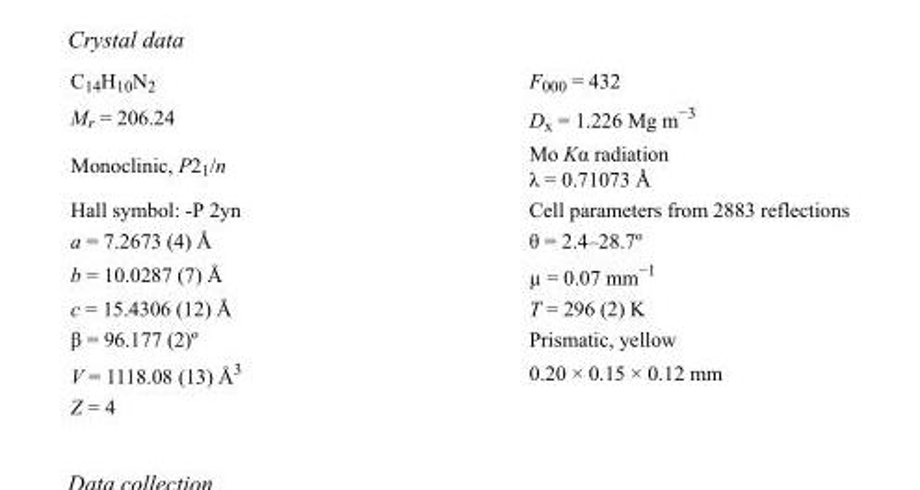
<table><tbody><tr><td>C<sub>14</sub>H<sub>10</sub>N<sub>2</sub></td><td>F<sub>000</sub> = 432</td></tr><tr><td>M<sub>r</sub> = 206.24</td><td>D<sub>x</sub> = 1.226 Mg m<sup>−3</sup></td></tr><tr><td>Monoclinic, P2<sub>1</sub>/n</td><td>Mo Kα radiation λ = 0.71073 Å</td></tr><tr><td>Hall symbol: -P 2yn</td><td>Cell parameters from 2883 reflections</td></tr><tr><td>a = 7.2673 (4) Å</td><td>θ = 2.4–28.7º</td></tr><tr><td>b = 10.0287 (7) Å</td><td>µ = 0.07 mm<sup>−1</sup></td></tr><tr><td>c = 15.4306 (12) Å</td><td>T = 296 (2) K</td></tr><tr><td>β = 96.177 (2)º</td><td>Prismatic, yellow</td></tr><tr><td>V = 1118.08 (13) Å<sup>3</sup></td><td>0.20 × 0.15 × 0.12 mm</td></tr><tr><td>Z = 4</td><td></td></tr></tbody></table>